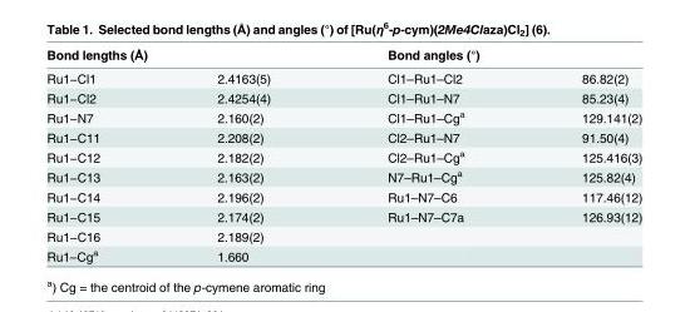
<table><thead><tr><td colspan="2">Bond lengths (Å)</td><td colspan="2">Bond angles (°)</td></tr><tr><td>Ru1−Cl1</td><td>2.4163(5)</td><td>Cl1–Ru1–Cl2</td><td>86.82(2)</td></tr></thead><tbody><tr><td>Ru1−Cl2</td><td>2.4254(4)</td><td>Cl1–Ru1–N7</td><td>85.23(4)</td></tr><tr><td>Ru1−N7</td><td>2.160(2)</td><td>Cl1–Ru1–Cg<sup>a</sup></td><td>129.141(2)</td></tr><tr><td>Ru1−C11</td><td>2.208(2)</td><td>Cl2–Ru1–N7</td><td>91.50(4)</td></tr><tr><td>Ru1−C12</td><td>2.182(2)</td><td>Cl2–Ru1–Cg<sup>a</sup></td><td>125.416(3)</td></tr><tr><td>Ru1−C13</td><td>2.163(2)</td><td>N7–Ru1–Cg<sup>a</sup></td><td>125.82(4)</td></tr><tr><td>Ru1−C14</td><td>2.196(2)</td><td>Ru1–N7–C6</td><td>117.46(12)</td></tr><tr><td>Ru1−C15</td><td>2.174(2)</td><td>Ru1–N7–C7a</td><td>126.93(12)</td></tr><tr><td>Ru1−C16</td><td>2.189(2)</td><td></td><td></td></tr><tr><td>Ru1–Cg<sup>a</sup></td><td>1.660</td><td></td><td></td></tr></tbody></table>